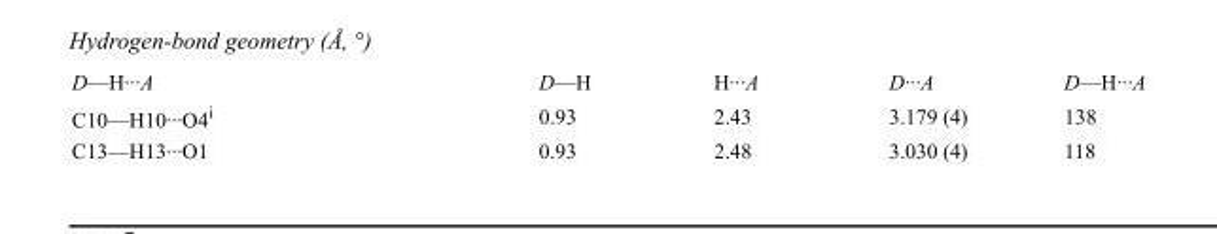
<table><tbody><tr><td>D—H···A</td><td>D—H</td><td>H···A</td><td>D···A</td><td>D—H···A</td></tr><tr><td>C10—H10···O4<sup>i</sup></td><td>0.93</td><td>2.43</td><td>3.179 (4)</td><td>138</td></tr><tr><td>C13—H13···O1</td><td>0.93</td><td>2.48</td><td>3.030 (4)</td><td>118</td></tr></tbody></table>